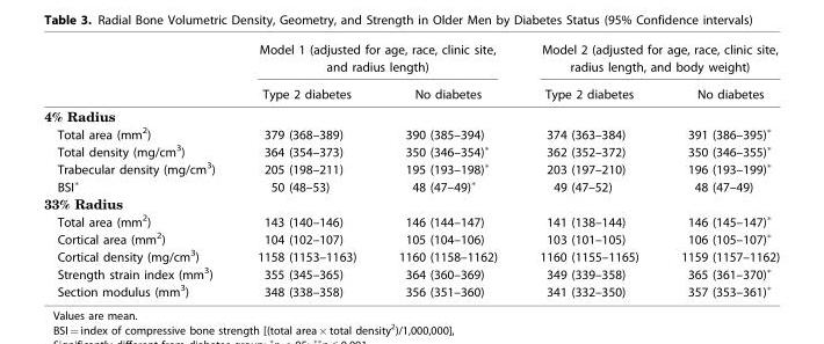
<table><thead><tr><td rowspan="2"></td><td colspan="2">Model 1 (adjusted for age, race, clinic site, and radius length)</td><td colspan="2">Model 2 (adjusted for age, race, clinic site, radius length, and body weight)</td></tr><tr><td>Type 2 diabetes</td><td>No diabetes</td><td>Type 2 diabetes</td><td>No diabetes</td></tr></thead><tbody><tr><td colspan="5">4% Radius</td></tr><tr><td>Total area (mm<sup>2</sup>)</td><td>379 (368–389)</td><td>390 (385–394)</td><td>374 (363–384)</td><td>391 (386–395)*</td></tr><tr><td>Total density (mg/cm<sup>3</sup>)</td><td>364 (354–373)</td><td>350 (346–354)*</td><td>362 (352–372)</td><td>350 (346–355)*</td></tr><tr><td>Trabecular density (mg/cm<sup>3</sup>)</td><td>205 (198–211)</td><td>195 (193–198)*</td><td>203 (197–210)</td><td>196 (193–199)*</td></tr><tr><td>BSI*</td><td>50 (48–53)</td><td>48 (47–49)*</td><td>49 (47–52)</td><td>48 (47–49)</td></tr><tr><td colspan="5">33% Radius</td></tr><tr><td>Total area (mm<sup>2</sup>)</td><td>143 (140–146)</td><td>146 (144–147)</td><td>141 (138–144)</td><td>146 (145–147)*</td></tr><tr><td>Cortical area (mm<sup>2</sup>)</td><td>104 (102–107)</td><td>105 (104–106)</td><td>103 (101–105)</td><td>106 (105–107)*</td></tr><tr><td>Cortical density (mg/cm<sup>3</sup>)</td><td>1158 (1153–1163)</td><td>1160 (1158–1162)</td><td>1160 (1155–1165)</td><td>1159 (1157–1162)</td></tr><tr><td>Strength strain index (mm<sup>3</sup>)</td><td>355 (345–365)</td><td>364 (360–369)</td><td>349 (339–358)</td><td>365 (361–370)*</td></tr><tr><td>Section modulus (mm<sup>3</sup>)</td><td>348 (338–358)</td><td>356 (351–360)</td><td>341 (332–350)</td><td>357 (353–361)*</td></tr></tbody></table>